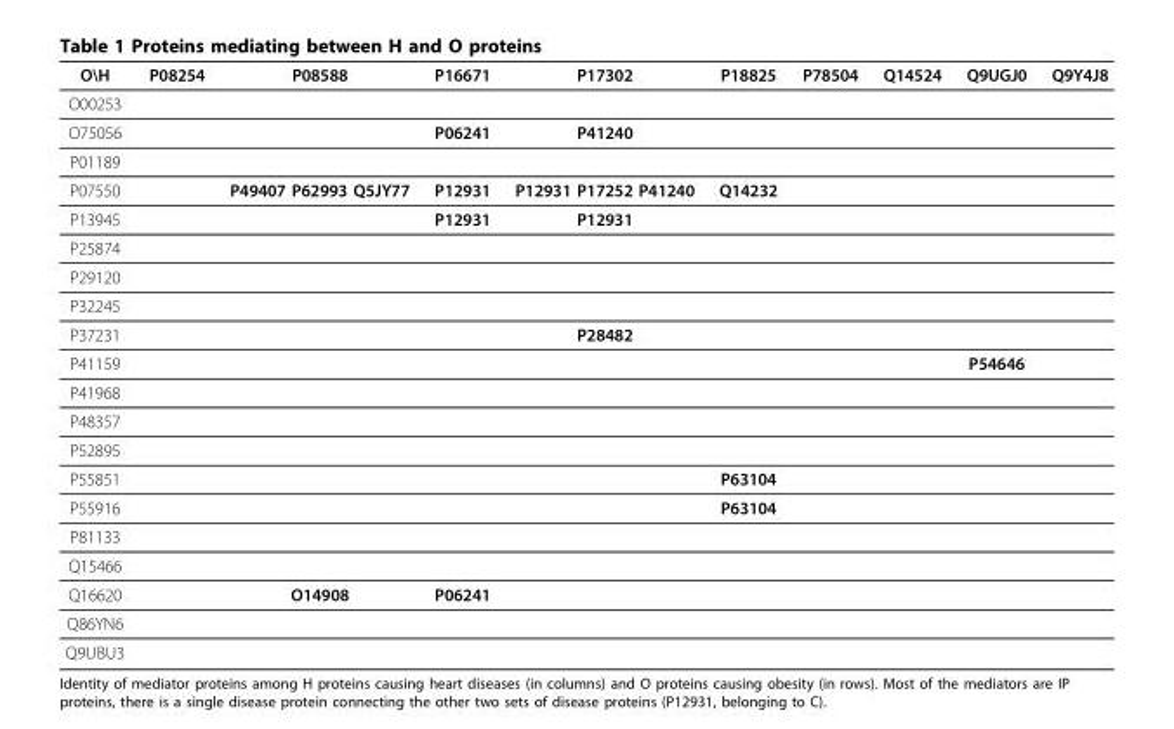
<table><thead><tr><td>O\H</td><td>P08254</td><td>P08588</td><td>P16671</td><td>P17302</td><td>P18825</td><td>P78504</td><td>Q14524</td><td>Q9UGJ0</td><td>Q9Y4J8</td></tr></thead><tbody><tr><td colspan="10">O00253</td></tr><tr><td>O75056</td><td></td><td></td><td>P06241</td><td>P41240</td><td></td><td></td><td></td><td></td><td></td></tr><tr><td colspan="10">P01189</td></tr><tr><td>P07550</td><td></td><td>P49407 P62993 Q5JY77</td><td>P12931</td><td>P12931 P17252 P41240</td><td>Q14232</td><td></td><td></td><td></td><td></td></tr><tr><td>P13945</td><td></td><td></td><td>P12931</td><td>P12931</td><td></td><td></td><td></td><td></td><td></td></tr><tr><td colspan="10">P25874</td></tr><tr><td colspan="10">P29120</td></tr><tr><td colspan="10">P32245</td></tr><tr><td>P37231</td><td></td><td></td><td></td><td>P28482</td><td></td><td></td><td></td><td></td><td></td></tr><tr><td>P41159</td><td></td><td></td><td></td><td></td><td></td><td></td><td></td><td>P54646</td><td></td></tr><tr><td colspan="10">P41968</td></tr><tr><td colspan="10">P48357</td></tr><tr><td colspan="10">P52895</td></tr><tr><td>P55851</td><td></td><td></td><td></td><td></td><td>P63104</td><td></td><td></td><td></td><td></td></tr><tr><td>P55916</td><td></td><td></td><td></td><td></td><td>P63104</td><td></td><td></td><td></td><td></td></tr><tr><td colspan="10">P81133</td></tr><tr><td colspan="10">Q15466</td></tr><tr><td>Q16620</td><td></td><td>O14908</td><td>P06241</td><td></td><td></td><td></td><td></td><td></td><td></td></tr><tr><td colspan="10">Q86YN6</td></tr><tr><td>Q9UBU3</td><td></td><td></td><td></td><td></td><td></td><td></td><td></td><td></td><td></td></tr></tbody></table>